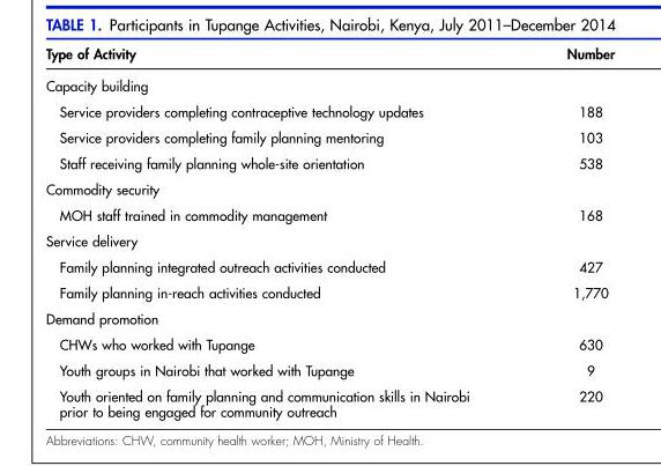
<table><thead><tr><td>Type of Activity</td><td>Number</td></tr></thead><tbody><tr><td colspan="2">Capacity building</td></tr><tr><td>Service providers completing contraceptive technology updates</td><td>188</td></tr><tr><td>Service providers completing family planning mentoring</td><td>103</td></tr><tr><td>Staff receiving family planning whole-site orientation</td><td>538</td></tr><tr><td colspan="2">Commodity security</td></tr><tr><td>MOH staff trained in commodity management</td><td>168</td></tr><tr><td colspan="2">Service delivery</td></tr><tr><td>Family planning integrated outreach activities conducted</td><td>427</td></tr><tr><td>Family planning in-reach activities conducted</td><td>1,770</td></tr><tr><td colspan="2">Demand promotion</td></tr><tr><td>CHWs who worked with Tupange</td><td>630</td></tr><tr><td>Youth groups in Nairobi that worked with Tupange</td><td>9</td></tr><tr><td>Youth oriented on family planning and communication skills in Nairobi prior to being engaged for community outreach</td><td>220</td></tr></tbody></table>